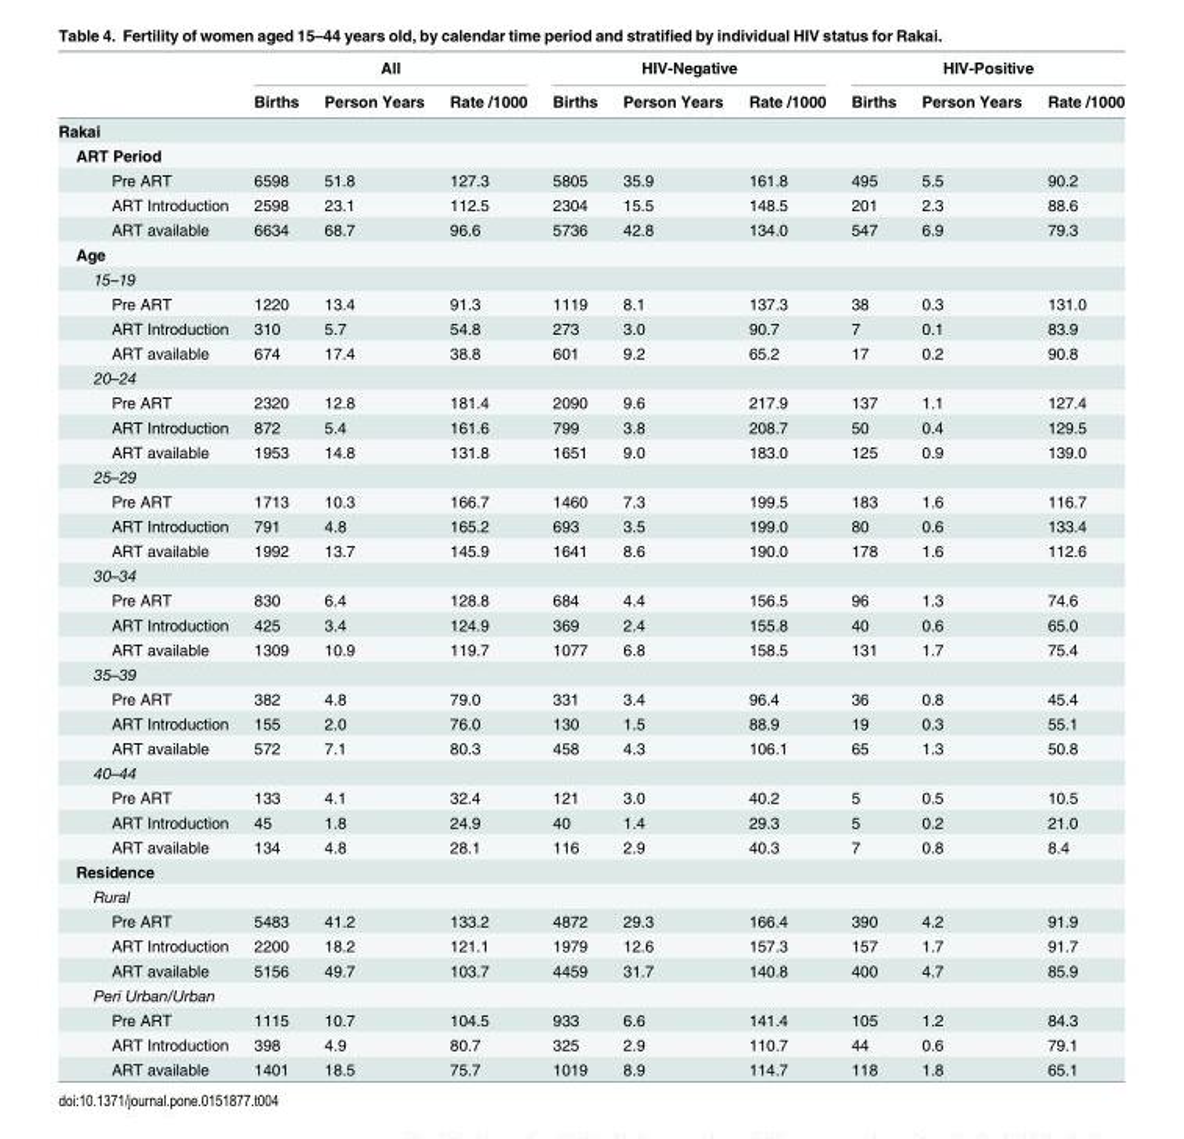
<table><thead><tr><td rowspan="2"></td><td colspan="3">All</td><td colspan="3">HIV-Negative</td><td colspan="3">HIV-Positive</td></tr><tr><td>Births</td><td>Person Years</td><td>Rate /1000</td><td>Births</td><td>Person Years</td><td>Rate /1000</td><td>Births</td><td>Person Years</td><td>Rate /1000</td></tr></thead><tbody><tr><td colspan="10">Rakai</td></tr><tr><td colspan="10">ART Period</td></tr><tr><td>Pre ART</td><td>6598</td><td>51.8</td><td>127.3</td><td>5805</td><td>35.9</td><td>161.8</td><td>495</td><td>5.5</td><td>90.2</td></tr><tr><td>ART Introduction</td><td>2598</td><td>23.1</td><td>112.5</td><td>2304</td><td>15.5</td><td>148.5</td><td>201</td><td>2.3</td><td>88.6</td></tr><tr><td>ART available</td><td>6634</td><td>68.7</td><td>96.6</td><td>5736</td><td>42.8</td><td>134.0</td><td>547</td><td>6.9</td><td>79.3</td></tr><tr><td colspan="10">Age</td></tr><tr><td colspan="10">15–19</td></tr><tr><td>Pre ART</td><td>1220</td><td>13.4</td><td>91.3</td><td>1119</td><td>8.1</td><td>137.3</td><td>38</td><td>0.3</td><td>131.0</td></tr><tr><td>ART Introduction</td><td>310</td><td>5.7</td><td>54.8</td><td>273</td><td>3.0</td><td>90.7</td><td>7</td><td>0.1</td><td>83.9</td></tr><tr><td>ART available</td><td>674</td><td>17.4</td><td>38.8</td><td>601</td><td>9.2</td><td>65.2</td><td>17</td><td>0.2</td><td>90.8</td></tr><tr><td colspan="10">20–24</td></tr><tr><td>Pre ART</td><td>2320</td><td>12.8</td><td>181.4</td><td>2090</td><td>9.6</td><td>217.9</td><td>137</td><td>1.1</td><td>127.4</td></tr><tr><td>ART Introduction</td><td>872</td><td>5.4</td><td>161.6</td><td>799</td><td>3.8</td><td>208.7</td><td>50</td><td>0.4</td><td>129.5</td></tr><tr><td>ART available</td><td>1953</td><td>14.8</td><td>131.8</td><td>1651</td><td>9.0</td><td>183.0</td><td>125</td><td>0.9</td><td>139.0</td></tr><tr><td colspan="10">25–29</td></tr><tr><td>Pre ART</td><td>1713</td><td>10.3</td><td>166.7</td><td>1460</td><td>7.3</td><td>199.5</td><td>183</td><td>1.6</td><td>116.7</td></tr><tr><td>ART Introduction</td><td>791</td><td>4.8</td><td>165.2</td><td>693</td><td>3.5</td><td>199.0</td><td>80</td><td>0.6</td><td>133.4</td></tr><tr><td>ART available</td><td>1992</td><td>13.7</td><td>145.9</td><td>1641</td><td>8.6</td><td>190.0</td><td>178</td><td>1.6</td><td>112.6</td></tr><tr><td colspan="10">30–34</td></tr><tr><td>Pre ART</td><td>830</td><td>6.4</td><td>128.8</td><td>684</td><td>4.4</td><td>156.5</td><td>96</td><td>1.3</td><td>74.6</td></tr><tr><td>ART Introduction</td><td>425</td><td>3.4</td><td>124.9</td><td>369</td><td>2.4</td><td>155.8</td><td>40</td><td>0.6</td><td>65.0</td></tr><tr><td>ART available</td><td>1309</td><td>10.9</td><td>119.7</td><td>1077</td><td>6.8</td><td>158.5</td><td>131</td><td>1.7</td><td>75.4</td></tr><tr><td colspan="10">35–39</td></tr><tr><td>Pre ART</td><td>382</td><td>4.8</td><td>79.0</td><td>331</td><td>3.4</td><td>96.4</td><td>36</td><td>0.8</td><td>45.4</td></tr><tr><td>ART Introduction</td><td>155</td><td>2.0</td><td>76.0</td><td>130</td><td>1.5</td><td>88.9</td><td>19</td><td>0.3</td><td>55.1</td></tr><tr><td>ART available</td><td>572</td><td>7.1</td><td>80.3</td><td>458</td><td>4.3</td><td>106.1</td><td>65</td><td>1.3</td><td>50.8</td></tr><tr><td colspan="10">40–44</td></tr><tr><td>Pre ART</td><td>133</td><td>4.1</td><td>32.4</td><td>121</td><td>3.0</td><td>40.2</td><td>5</td><td>0.5</td><td>10.5</td></tr><tr><td>ART Introduction</td><td>45</td><td>1.8</td><td>24.9</td><td>40</td><td>1.4</td><td>29.3</td><td>5</td><td>0.2</td><td>21.0</td></tr><tr><td>ART available</td><td>134</td><td>4.8</td><td>28.1</td><td>116</td><td>2.9</td><td>40.3</td><td>7</td><td>0.8</td><td>8.4</td></tr><tr><td colspan="10">Residence</td></tr><tr><td colspan="10">Rural</td></tr><tr><td>Pre ART</td><td>5483</td><td>41.2</td><td>133.2</td><td>4872</td><td>29.3</td><td>166.4</td><td>390</td><td>4.2</td><td>91.9</td></tr><tr><td>ART Introduction</td><td>2200</td><td>18.2</td><td>121.1</td><td>1979</td><td>12.6</td><td>157.3</td><td>157</td><td>1.7</td><td>91.7</td></tr><tr><td>ART available</td><td>5156</td><td>49.7</td><td>103.7</td><td>4459</td><td>31.7</td><td>140.8</td><td>400</td><td>4.7</td><td>85.9</td></tr><tr><td colspan="10">Peri Urban/Urban</td></tr><tr><td>Pre ART</td><td>1115</td><td>10.7</td><td>104.5</td><td>933</td><td>6.6</td><td>141.4</td><td>105</td><td>1.2</td><td>84.3</td></tr><tr><td>ART Introduction</td><td>398</td><td>4.9</td><td>80.7</td><td>325</td><td>2.9</td><td>110.7</td><td>44</td><td>0.6</td><td>79.1</td></tr><tr><td>ART available</td><td>1401</td><td>18.5</td><td>75.7</td><td>1019</td><td>8.9</td><td>114.7</td><td>118</td><td>1.8</td><td>65.1</td></tr></tbody></table>